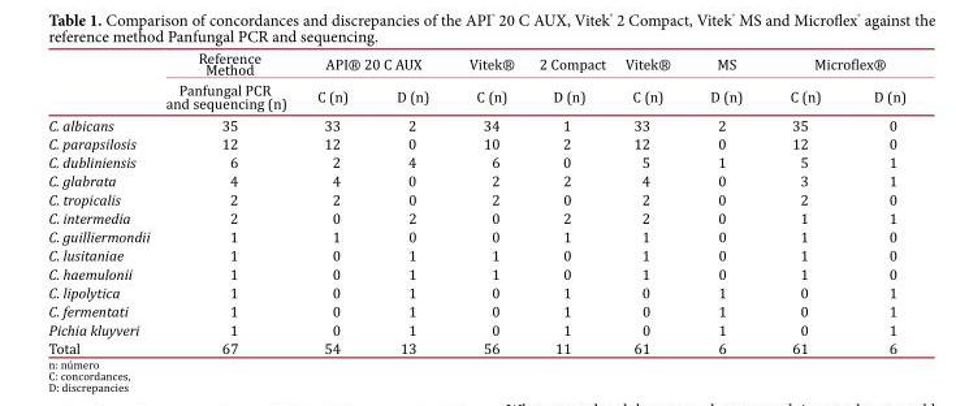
<table><thead><tr><td rowspan="2"></td><td rowspan="2">Reference Method Panfungal PCR and sequencing (n)</td><td colspan="2">API® 20 C AUX</td><td colspan="2">Vitek<sup>®</sup> 2 Compact</td><td colspan="2">Vitek<sup>®</sup> MS</td><td colspan="2">Microflex<sup>®</sup></td></tr><tr><td>C (n)</td><td>D (n)</td><td>C (n)</td><td>D (n)</td><td>C (n)</td><td>D (n)</td><td>C (n)</td><td>D (n)</td></tr></thead><tbody><tr><td>C. albicans</td><td>35</td><td>33</td><td>2</td><td>34</td><td>1</td><td>33</td><td>2</td><td>35</td><td>0</td></tr><tr><td>C. parapsilosis</td><td>12</td><td>12</td><td>0</td><td>10</td><td>2</td><td>12</td><td>0</td><td>12</td><td>0</td></tr><tr><td>C. dubliniensis</td><td>6</td><td>2</td><td>4</td><td>6</td><td>0</td><td>5</td><td>1</td><td>5</td><td>1</td></tr><tr><td>C. glabrata</td><td>4</td><td>4</td><td>0</td><td>2</td><td>2</td><td>4</td><td>0</td><td>3</td><td>1</td></tr><tr><td>C. tropicalis</td><td>2</td><td>2</td><td>0</td><td>2</td><td>0</td><td>2</td><td>0</td><td>2</td><td>0</td></tr><tr><td>C. intermedia</td><td>2</td><td>0</td><td>2</td><td>0</td><td>2</td><td>2</td><td>0</td><td>1</td><td>1</td></tr><tr><td>C. guilliermondii</td><td>1</td><td>1</td><td>0</td><td>0</td><td>1</td><td>1</td><td>0</td><td>1</td><td>0</td></tr><tr><td>C. lusitaniae</td><td>1</td><td>0</td><td>1</td><td>1</td><td>0</td><td>1</td><td>0</td><td>1</td><td>0</td></tr><tr><td>C. haemulonii</td><td>1</td><td>0</td><td>1</td><td>1</td><td>0</td><td>1</td><td>0</td><td>1</td><td>0</td></tr><tr><td>C. lipolytica</td><td>1</td><td>0</td><td>1</td><td>0</td><td>1</td><td>0</td><td>1</td><td>0</td><td>1</td></tr><tr><td>C. fermentati</td><td>1</td><td>0</td><td>1</td><td>0</td><td>1</td><td>0</td><td>1</td><td>0</td><td>1</td></tr><tr><td>Pichia kluyveri</td><td>1</td><td>0</td><td>1</td><td>0</td><td>1</td><td>0</td><td>1</td><td>0</td><td>1</td></tr><tr><td>Total</td><td>67</td><td>54</td><td>13</td><td>56</td><td>11</td><td>61</td><td>6</td><td>61</td><td>6</td></tr></tbody></table>